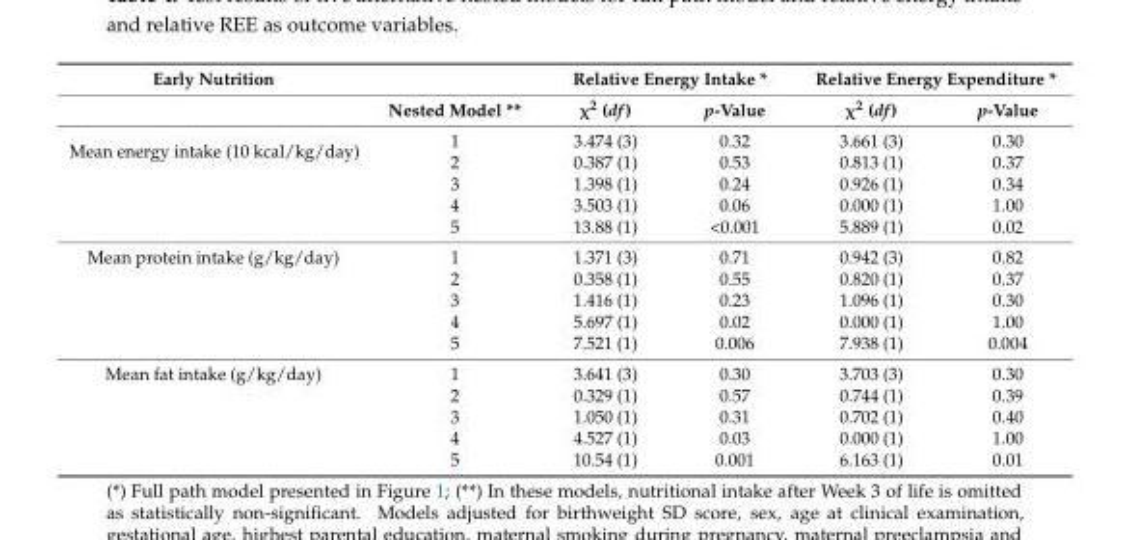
<table><thead><tr><td rowspan="2">Early Nutrition</td><td rowspan="2">Nested Model **</td><td colspan="2">Relative Energy Intake *</td><td colspan="2">Relative Energy Expenditure *</td></tr><tr><td>χ<sup>2</sup> (df)</td><td>p-Value</td><td>χ<sup>2</sup> (df)</td><td>p-Value</td></tr></thead><tbody><tr><td rowspan="5">Mean energy intake (10 kcal/kg/day)</td><td>1</td><td>3.474 (3)</td><td>0.32</td><td>3.661 (3)</td><td>0.30</td></tr><tr><td>2</td><td>0.387 (1)</td><td>0.53</td><td>0.813 (1)</td><td>0.37</td></tr><tr><td>3</td><td>1.398 (1)</td><td>0.24</td><td>0.926 (1)</td><td>0.34</td></tr><tr><td>4</td><td>3.503 (1)</td><td>0.06</td><td>0.000 (1)</td><td>1.00</td></tr><tr><td>5</td><td>13.88 (1)</td><td>&lt;0.001</td><td>5.889 (1)</td><td>0.02</td></tr><tr><td rowspan="5">Mean protein intake (g/kg/day)</td><td>1</td><td>1.371 (3)</td><td>0.71</td><td>0.942 (3)</td><td>0.82</td></tr><tr><td>2</td><td>0.358 (1)</td><td>0.55</td><td>0.820 (1)</td><td>0.37</td></tr><tr><td>3</td><td>1.416 (1)</td><td>0.23</td><td>1.096 (1)</td><td>0.30</td></tr><tr><td>4</td><td>5.697 (1)</td><td>0.02</td><td>0.000 (1)</td><td>1.00</td></tr><tr><td>5</td><td>7.521 (1)</td><td>0.006</td><td>7.938 (1)</td><td>0.004</td></tr><tr><td rowspan="5">Mean fat intake (g/kg/day)</td><td>1</td><td>3.641 (3)</td><td>0.30</td><td>3.703 (3)</td><td>0.30</td></tr><tr><td>2</td><td>0.329 (1)</td><td>0.57</td><td>0.744 (1)</td><td>0.39</td></tr><tr><td>3</td><td>1.050 (1)</td><td>0.31</td><td>0.702 (1)</td><td>0.40</td></tr><tr><td>4</td><td>4.527 (1)</td><td>0.03</td><td>0.000 (1)</td><td>1.00</td></tr><tr><td>5</td><td>10.54 (1)</td><td>0.001</td><td>6.163 (1)</td><td>0.01</td></tr></tbody></table>